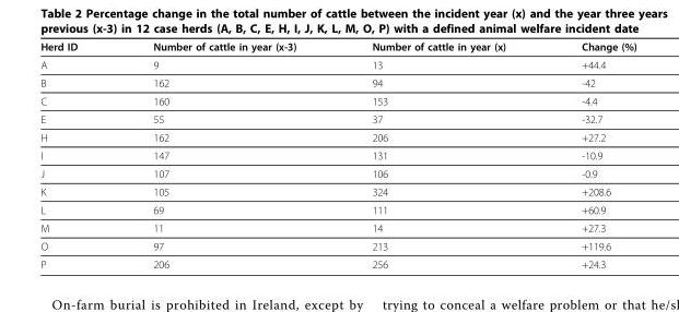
<table><thead><tr><td>Herd ID</td><td>Number of cattle in year (x-3)</td><td>Number of cattle in year (x)</td><td>Change (%)</td></tr></thead><tbody><tr><td>A</td><td>9</td><td>13</td><td>+44.4</td></tr><tr><td>B</td><td>162</td><td>94</td><td>-42</td></tr><tr><td>C</td><td>160</td><td>153</td><td>-4.4</td></tr><tr><td>E</td><td>55</td><td>37</td><td>-32.7</td></tr><tr><td>H</td><td>162</td><td>206</td><td>+27.2</td></tr><tr><td>I</td><td>147</td><td>131</td><td>-10.9</td></tr><tr><td>J</td><td>107</td><td>106</td><td>-0.9</td></tr><tr><td>K</td><td>105</td><td>324</td><td>+208.6</td></tr><tr><td>L</td><td>69</td><td>111</td><td>+60.9</td></tr><tr><td>M</td><td>11</td><td>14</td><td>+27.3</td></tr><tr><td>O</td><td>97</td><td>213</td><td>+119.6</td></tr><tr><td>P</td><td>206</td><td>256</td><td>+24.3</td></tr></tbody></table>